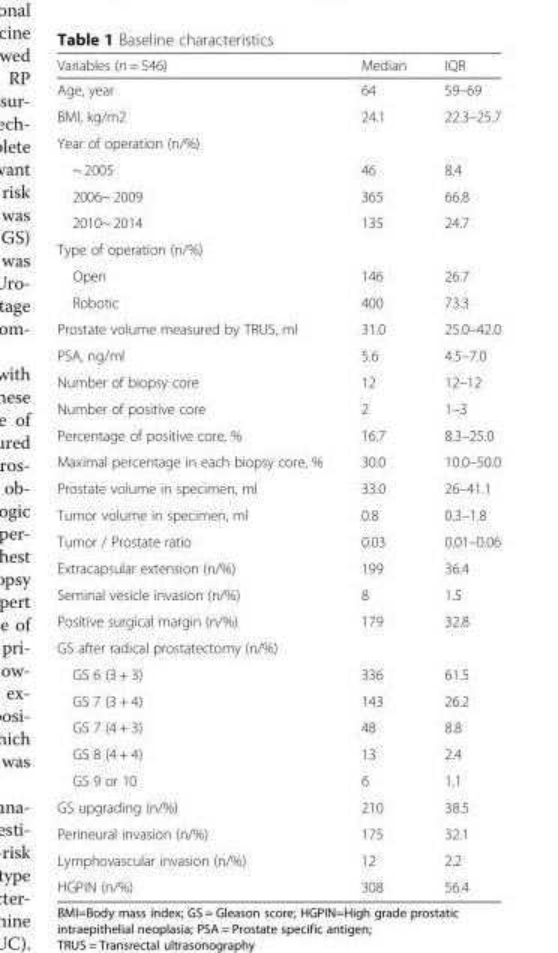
<table><thead><tr><td>Variables (n = 546)</td><td>Median</td><td>IQR</td></tr></thead><tbody><tr><td>Age, year</td><td>64</td><td>59–69</td></tr><tr><td>BMI, kg/m2</td><td>24.1</td><td>22.3–25.7</td></tr><tr><td colspan="3">Year of operation (n/%)</td></tr><tr><td>~ 2005</td><td>46</td><td>8.4</td></tr><tr><td>2006~ 2009</td><td>365</td><td>66.8</td></tr><tr><td>2010~ 2014</td><td>135</td><td>24.7</td></tr><tr><td colspan="3">Type of operation (n/%)</td></tr><tr><td>Open</td><td>146</td><td>26.7</td></tr><tr><td>Robotic</td><td>400</td><td>73.3</td></tr><tr><td>Prostate volume measured by TRUS, ml</td><td>31.0</td><td>25.0–42.0</td></tr><tr><td>PSA, ng/ml</td><td>5.6</td><td>4.5–7.0</td></tr><tr><td>Number of biopsy core</td><td>12</td><td>12–12</td></tr><tr><td>Number of positive core</td><td>2</td><td>1–3</td></tr><tr><td>Percentage of positive core, %</td><td>16.7</td><td>8.3–25.0</td></tr><tr><td>Maximal percentage in each biopsy core, %</td><td>30.0</td><td>10.0–50.0</td></tr><tr><td>Prostate volume in specimen, ml</td><td>33.0</td><td>26–41.1</td></tr><tr><td>Tumor volume in specimen, ml</td><td>0.8</td><td>0.3–1.8</td></tr><tr><td>Tumor / Prostate ratio</td><td>0.03</td><td>0.01–0.06</td></tr><tr><td>Extracapsular extension (n/%)</td><td>199</td><td>36.4</td></tr><tr><td>Seminal vesicle invasion (n/%)</td><td>8</td><td>1.5</td></tr><tr><td>Positive surgical margin (n/%)</td><td>179</td><td>32.8</td></tr><tr><td colspan="3">GS after radical prostatectomy (n/%)</td></tr><tr><td>GS 6 (3 + 3)</td><td>336</td><td>61.5</td></tr><tr><td>GS 7 (3 + 4)</td><td>143</td><td>26.2</td></tr><tr><td>GS 7 (4 + 3)</td><td>48</td><td>8.8</td></tr><tr><td>GS 8 (4 + 4)</td><td>13</td><td>2.4</td></tr><tr><td>GS 9 or 10</td><td>6</td><td>1.1</td></tr><tr><td>GS upgrading (n/%)</td><td>210</td><td>38.5</td></tr><tr><td>Perineural invasion (n/%)</td><td>175</td><td>32.1</td></tr><tr><td>Lymphovascular invasion (n/%)</td><td>12</td><td>2.2</td></tr><tr><td>HGPIN (n/%)</td><td>308</td><td>56.4</td></tr></tbody></table>